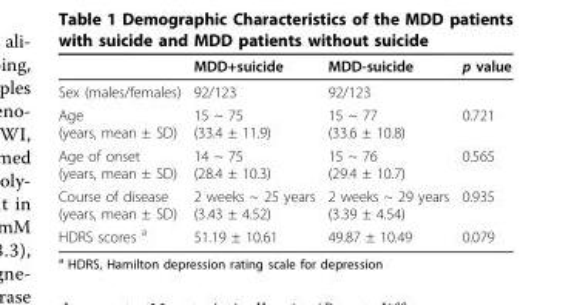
<table><thead><tr><td></td><td>MDD+suicide</td><td>MDD-suicide</td><td>p value</td></tr></thead><tbody><tr><td>Sex (males/females)</td><td>92/123</td><td>92/123</td><td></td></tr><tr><td>Age (years, mean ± SD)</td><td>15 ~ 75 (33.4 ± 11.9)</td><td>15 ~ 77 (33.6 ± 10.8)</td><td>0.721</td></tr><tr><td>Age of onset (years, mean ± SD)</td><td>14 ~ 75 (28.4 ± 10.3)</td><td>15 ~ 76 (29.4 ± 10.7)</td><td>0.565</td></tr><tr><td>Course of disease (years, mean ± SD)</td><td>2 weeks ~ 25 years (3.43 ± 4.52)</td><td>2 weeks ~ 29 years (3.39 ± 4.54)</td><td>0.935</td></tr><tr><td>HDRS scores <sup>a</sup></td><td>51.19 ± 10.61</td><td>49.87 ± 10.49</td><td>0.079</td></tr></tbody></table>